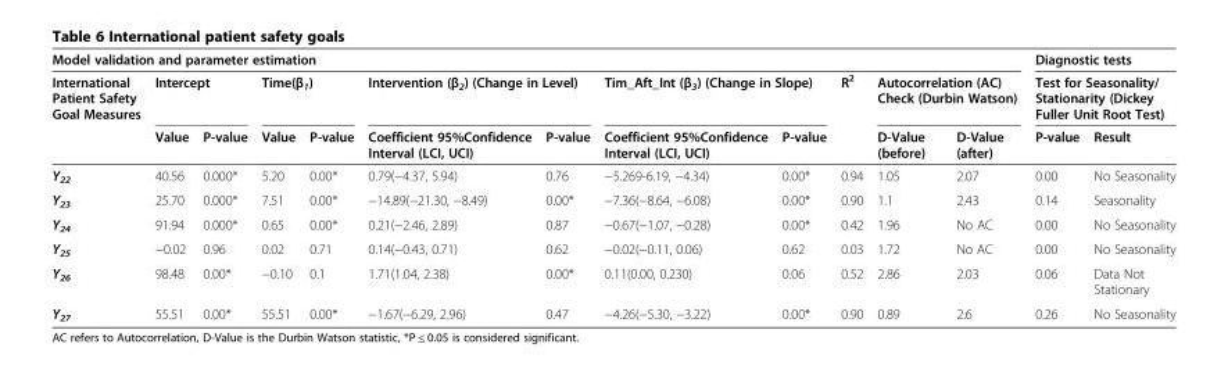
<table><thead><tr><td colspan="12">Model validation and parameter estimation</td><td rowspan="2" colspan="2">Diagnostic tests Test for Seasonality/ Stationarity (Dickey Fuller Unit Root Test)</td></tr><tr><td rowspan="2">International Patient Safety Goal Measures</td><td colspan="2">Intercept</td><td colspan="2">Time(β<sub>1</sub>)</td><td colspan="2">Intervention (β<sub>2</sub>) (Change in Level)</td><td colspan="2">Tim_Aft_Int (β<sub>3</sub>) (Change in Slope)</td><td rowspan="2">R<sup>2</sup></td><td colspan="2">Autocorrelation (AC) Check (Durbin Watson)</td></tr><tr><td>Value</td><td>P-value</td><td>Value</td><td>P-value</td><td>Coefficient 95%Confidence Interval (LCI, UCI)</td><td>P-value</td><td>Coefficient 95%Confidence Interval (LCI, UCI)</td><td>P-value</td><td>D-Value (before)</td><td>D-Value (after)</td><td>P-value</td><td>Result</td></tr></thead><tbody><tr><td>Y<sub>22</sub></td><td>40.56</td><td>0.000*</td><td>5.20</td><td>0.00*</td><td>0.79(−4.37, 5.94)</td><td>0.76</td><td>−5.269-6.19, −4.34)</td><td>0.00*</td><td>0.94</td><td>1.05</td><td>2.07</td><td>0.00</td><td>No Seasonality</td></tr><tr><td>Y<sub>23</sub></td><td>25.70</td><td>0.000*</td><td>7.51</td><td>0.00*</td><td>−14.89(−21.30, −8.49)</td><td>0.00*</td><td>−7.36(−8.64, −6.08)</td><td>0.00*</td><td>0.90</td><td>1.1</td><td>2.43</td><td>0.14</td><td>Seasonality</td></tr><tr><td>Y<sub>24</sub></td><td>91.94</td><td>0.000*</td><td>0.65</td><td>0.00*</td><td>0.21(−2.46, 2.89)</td><td>0.87</td><td>−0.67(−1.07, −0.28)</td><td>0.00*</td><td>0.42</td><td>1.96</td><td>No AC</td><td>0.00</td><td>No Seasonality</td></tr><tr><td>Y<sub>25</sub></td><td>−0.02</td><td>0.96</td><td>0.02</td><td>0.71</td><td>0.14(−0.43, 0.71)</td><td>0.62</td><td>−0.02(−0.11, 0.06)</td><td>0.62</td><td>0.03</td><td>1.72</td><td>No AC</td><td>0.00</td><td>No Seasonality</td></tr><tr><td>Y<sub>26</sub></td><td>98.48</td><td>0.00*</td><td>−0.10</td><td>0.1</td><td>1.71(1.04, 2.38)</td><td>0.00*</td><td>0.11(0.00, 0.230)</td><td>0.06</td><td>0.52</td><td>2.86</td><td>2.03</td><td>0.06</td><td>Data Not Stationary</td></tr><tr><td>Y<sub>27</sub></td><td>55.51</td><td>0.00*</td><td>55.51</td><td>0.00*</td><td>−1.67(−6.29, 2.96)</td><td>0.47</td><td>−4.26(−5.30, −3.22)</td><td>0.00*</td><td>0.90</td><td>0.89</td><td>2.6</td><td>0.26</td><td>No Seasonality</td></tr></tbody></table>